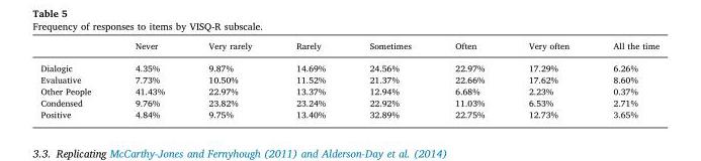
<table><thead><tr><td></td><td>Never</td><td>Very rarely</td><td>Rarely</td><td>Sometimes</td><td>Often</td><td>Very often</td><td>All the time</td></tr></thead><tbody><tr><td>Dialogic</td><td>4.35%</td><td>9.87%</td><td>14.69%</td><td>24.56%</td><td>22.97%</td><td>17.29%</td><td>6.26%</td></tr><tr><td>Evaluative</td><td>7.73%</td><td>10.50%</td><td>11.52%</td><td>21.37%</td><td>22.66%</td><td>17.62%</td><td>8.60%</td></tr><tr><td>Other People</td><td>41.43%</td><td>22.97%</td><td>13.37%</td><td>12.94%</td><td>6.68%</td><td>2.23%</td><td>0.37%</td></tr><tr><td>Condensed</td><td>9.76%</td><td>23.82%</td><td>23.24%</td><td>22.92%</td><td>11.03%</td><td>6.53%</td><td>2.71%</td></tr><tr><td>Positive</td><td>4.84%</td><td>9.75%</td><td>13.40%</td><td>32.89%</td><td>22.75%</td><td>12.73%</td><td>3.65%</td></tr></tbody></table>